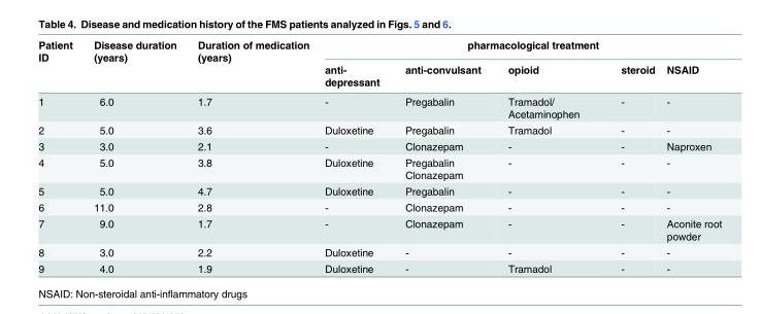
<table><thead><tr><td rowspan="2">Patient ID</td><td rowspan="2">Disease duration (years)</td><td rowspan="2">Duration of medication (years)</td><td colspan="5">pharmacological treatment</td></tr><tr><td>anti- depressant</td><td>anti-convulsant</td><td>opioid</td><td>steroid</td><td>NSAID</td></tr></thead><tbody><tr><td>1</td><td>6.0</td><td>1.7</td><td>-</td><td>Pregabalin</td><td>Tramadol/ Acetaminophen</td><td>-</td><td>-</td></tr><tr><td>2</td><td>5.0</td><td>3.6</td><td>Duloxetine</td><td>Pregabalin</td><td>Tramadol</td><td>-</td><td>-</td></tr><tr><td>3</td><td>3.0</td><td>2.1</td><td>-</td><td>Clonazepam</td><td>-</td><td>-</td><td>Naproxen</td></tr><tr><td>4</td><td>5.0</td><td>3.8</td><td>Duloxetine</td><td>Pregabalin Clonazepam</td><td>-</td><td>-</td><td>-</td></tr><tr><td>5</td><td>5.0</td><td>4.7</td><td>Duloxetine</td><td>Pregabalin</td><td>-</td><td>-</td><td>-</td></tr><tr><td>6</td><td>11.0</td><td>2.8</td><td>-</td><td>Clonazepam</td><td>-</td><td>-</td><td>-</td></tr><tr><td>7</td><td>9.0</td><td>1.7</td><td>-</td><td>Clonazepam</td><td>-</td><td>-</td><td>Aconite root powder</td></tr><tr><td>8</td><td>3.0</td><td>2.2</td><td>Duloxetine</td><td>-</td><td>-</td><td>-</td><td>-</td></tr><tr><td>9</td><td>4.0</td><td>1.9</td><td>Duloxetine</td><td>-</td><td>Tramadol</td><td>-</td><td>-</td></tr></tbody></table>